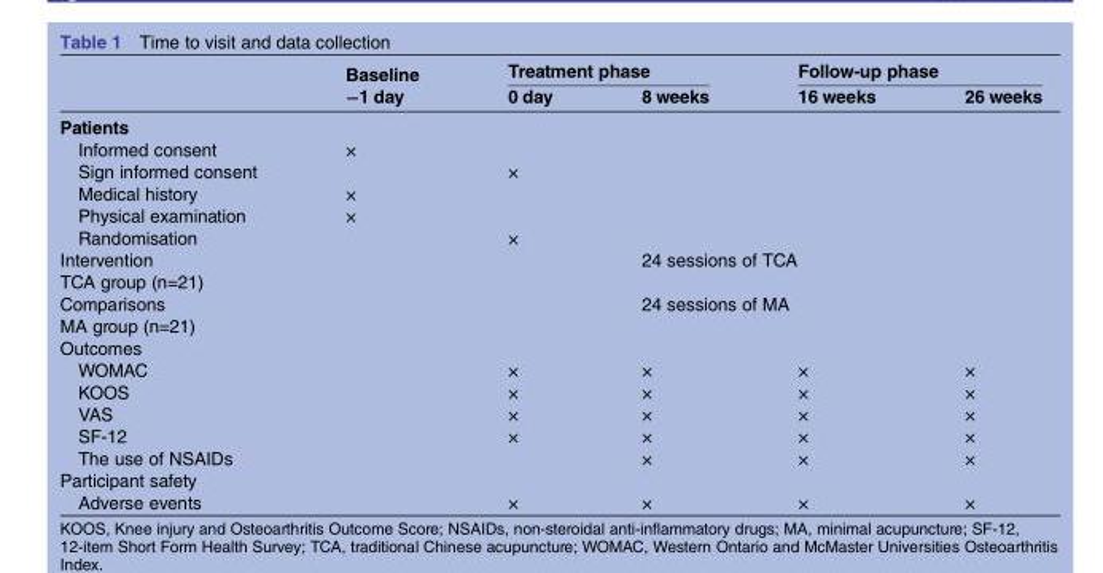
<table><thead><tr><td rowspan="2"></td><td rowspan="2">Baseline −1 day</td><td colspan="2">Treatment phase</td><td colspan="2">Follow-up phase</td></tr><tr><td>0 day</td><td>8 weeks</td><td>16 weeks</td><td>26 weeks</td></tr><tr><td colspan="6">Patients</td></tr></thead><tbody><tr><td>Informed consent</td><td>×</td><td></td><td></td><td></td><td></td></tr><tr><td>Sign informed consent</td><td></td><td>×</td><td></td><td></td><td></td></tr><tr><td>Medical history</td><td>×</td><td></td><td></td><td></td><td></td></tr><tr><td>Physical examination</td><td>×</td><td></td><td></td><td></td><td></td></tr><tr><td>Randomisation</td><td></td><td>×</td><td></td><td></td><td></td></tr><tr><td>Intervention TCA group (n=21)</td><td></td><td colspan="2">24 sessions of TCA</td><td></td><td></td></tr><tr><td>Comparisons MA group (n=21)</td><td></td><td colspan="2">24 sessions of MA</td><td></td><td></td></tr><tr><td colspan="6">Outcomes</td></tr><tr><td>WOMAC</td><td></td><td>×</td><td>×</td><td>×</td><td>×</td></tr><tr><td>KOOS</td><td></td><td>×</td><td>×</td><td>×</td><td>×</td></tr><tr><td>VAS</td><td></td><td>×</td><td>×</td><td>×</td><td>×</td></tr><tr><td>SF-12</td><td></td><td>×</td><td>×</td><td>×</td><td>×</td></tr><tr><td>The use of NSAIDs</td><td></td><td></td><td>×</td><td>×</td><td>×</td></tr><tr><td colspan="6">Participant safety</td></tr><tr><td>Adverse events</td><td></td><td>×</td><td>×</td><td>×</td><td>×</td></tr></tbody></table>